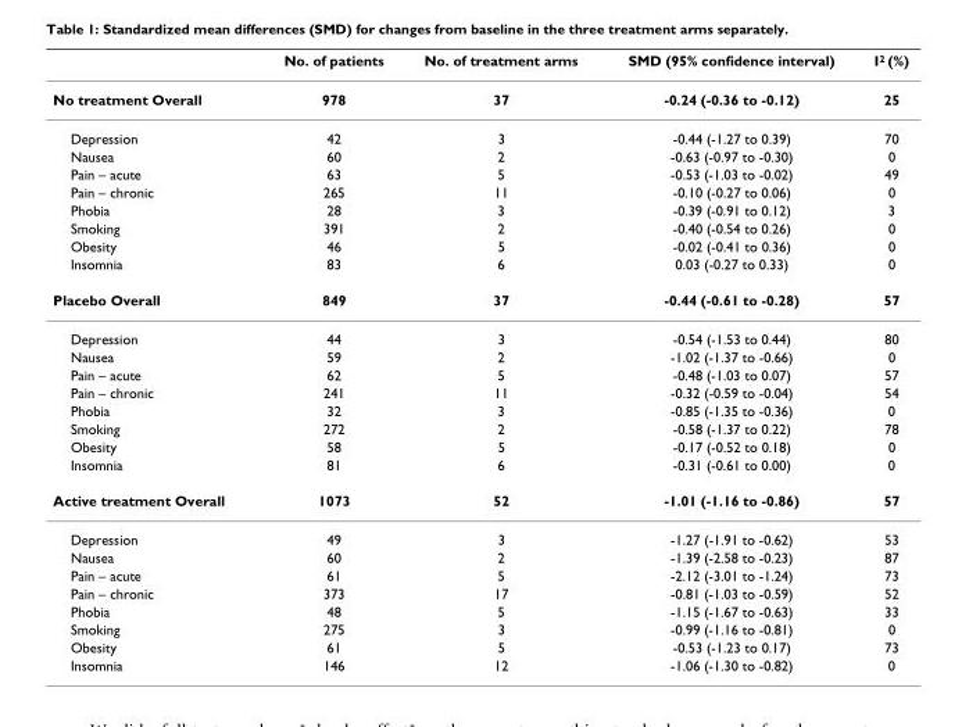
<table><thead><tr><td></td><td>No. of patients</td><td>No. of treatment arms</td><td>SMD (95% confidence interval)</td><td>I<sup>2</sup> (%)</td></tr></thead><tbody><tr><td>No treatment Overall</td><td>978</td><td>37</td><td>-0.24 (-0.36 to -0.12)</td><td>25</td></tr><tr><td>Depression</td><td>42</td><td>3</td><td>-0.44 (-1.27 to 0.39)</td><td>70</td></tr><tr><td>Nausea</td><td>60</td><td>2</td><td>-0.63 (-0.97 to -0.30)</td><td>0</td></tr><tr><td>Pain – acute</td><td>63</td><td>5</td><td>-0.53 (-1.03 to -0.02)</td><td>49</td></tr><tr><td>Pain – chronic</td><td>265</td><td>11</td><td>-0.10 (-0.27 to 0.06)</td><td>0</td></tr><tr><td>Phobia</td><td>28</td><td>3</td><td>-0.39 (-0.91 to 0.12)</td><td>3</td></tr><tr><td>Smoking</td><td>391</td><td>2</td><td>-0.40 (-0.54 to 0.26)</td><td>0</td></tr><tr><td>Obesity</td><td>46</td><td>5</td><td>-0.02 (-0.41 to 0.36)</td><td>0</td></tr><tr><td>Insomnia</td><td>83</td><td>6</td><td>0.03 (-0.27 to 0.33)</td><td>0</td></tr><tr><td>Placebo Overall</td><td>849</td><td>37</td><td>-0.44 (-0.61 to -0.28)</td><td>57</td></tr><tr><td>Depression</td><td>44</td><td>3</td><td>-0.54 (-1.53 to 0.44)</td><td>80</td></tr><tr><td>Nausea</td><td>59</td><td>2</td><td>-1.02 (-1.37 to -0.66)</td><td>0</td></tr><tr><td>Pain – acute</td><td>62</td><td>5</td><td>-0.48 (-1.03 to 0.07)</td><td>57</td></tr><tr><td>Pain – chronic</td><td>241</td><td>11</td><td>-0.32 (-0.59 to -0.04)</td><td>54</td></tr><tr><td>Phobia</td><td>32</td><td>3</td><td>-0.85 (-1.35 to -0.36)</td><td>0</td></tr><tr><td>Smoking</td><td>272</td><td>2</td><td>-0.58 (-1.37 to 0.22)</td><td>78</td></tr><tr><td>Obesity</td><td>58</td><td>5</td><td>-0.17 (-0.52 to 0.18)</td><td>0</td></tr><tr><td>Insomnia</td><td>81</td><td>6</td><td>-0.31 (-0.61 to 0.00)</td><td>0</td></tr><tr><td>Active treatment Overall</td><td>1073</td><td>52</td><td>-1.01 (-1.16 to -0.86)</td><td>57</td></tr><tr><td>Depression</td><td>49</td><td>3</td><td>-1.27 (-1.91 to -0.62)</td><td>53</td></tr><tr><td>Nausea</td><td>60</td><td>2</td><td>-1.39 (-2.58 to -0.23)</td><td>87</td></tr><tr><td>Pain – acute</td><td>61</td><td>5</td><td>-2.12 (-3.01 to -1.24)</td><td>73</td></tr><tr><td>Pain – chronic</td><td>373</td><td>17</td><td>-0.81 (-1.03 to -0.59)</td><td>52</td></tr><tr><td>Phobia</td><td>48</td><td>5</td><td>-1.15 (-1.67 to -0.63)</td><td>33</td></tr><tr><td>Smoking</td><td>275</td><td>3</td><td>-0.99 (-1.16 to -0.81)</td><td>0</td></tr><tr><td>Obesity</td><td>61</td><td>5</td><td>-0.53 (-1.23 to 0.17)</td><td>73</td></tr><tr><td>Insomnia</td><td>146</td><td>12</td><td>-1.06 (-1.30 to -0.82)</td><td>0</td></tr></tbody></table>